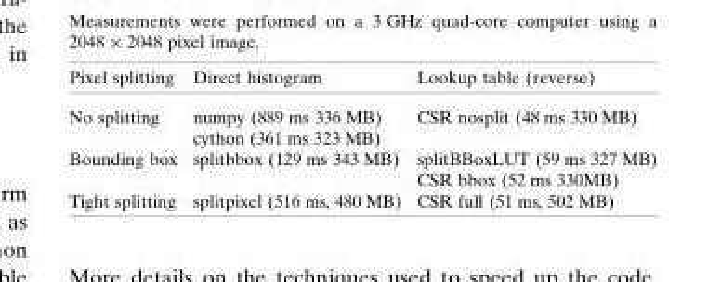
<table><thead><tr><td>Pixel splitting</td><td>Direct histogram</td><td>Lookup table (reverse)</td></tr></thead><tbody><tr><td rowspan="2">No splitting</td><td>numpy (889 ms 336 MB)</td><td>CSR nosplit (48 ms 330 MB)</td></tr><tr><td>cython (361 ms 323 MB)</td><td></td></tr><tr><td rowspan="2">Bounding box</td><td>splitbbox (129 ms 343 MB)</td><td>splitBBoxLUT (59 ms 327</td></tr><tr><td></td><td>CSR bbox (52 ms 330MB)</td></tr><tr><td>Tight splitting</td><td>splitpixel (516 ms, 480 MB)</td><td>CSR full (51 ms, 502 MB)</td></tr></tbody></table>